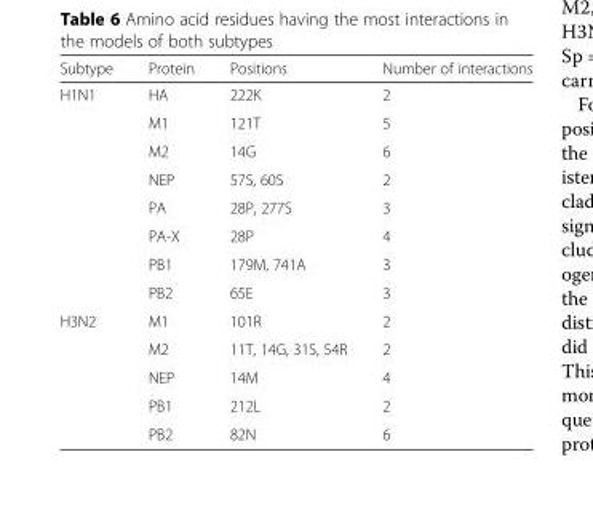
<table><thead><tr><td>Subtype</td><td>Protein</td><td>Positions</td><td>Number of interactions</td></tr></thead><tbody><tr><td rowspan="8">H1N1</td><td>HA</td><td>222K</td><td>2</td></tr><tr><td>M1</td><td>121T</td><td>5</td></tr><tr><td>M2</td><td>14G</td><td>6</td></tr><tr><td>NEP</td><td>57S, 60S</td><td>2</td></tr><tr><td>PA</td><td>28P, 277S</td><td>3</td></tr><tr><td>PA-X</td><td>28P</td><td>4</td></tr><tr><td>PB1</td><td>179M, 741A</td><td>3</td></tr><tr><td>PB2</td><td>65E</td><td>3</td></tr><tr><td rowspan="5">H3N2</td><td>M1</td><td>101R</td><td>2</td></tr><tr><td>M2</td><td>11T, 14G, 31S, 54R</td><td>2</td></tr><tr><td>NEP</td><td>14M</td><td>4</td></tr><tr><td>PB1</td><td>212L</td><td>2</td></tr><tr><td>PB2</td><td>82N</td><td>6</td></tr></tbody></table>